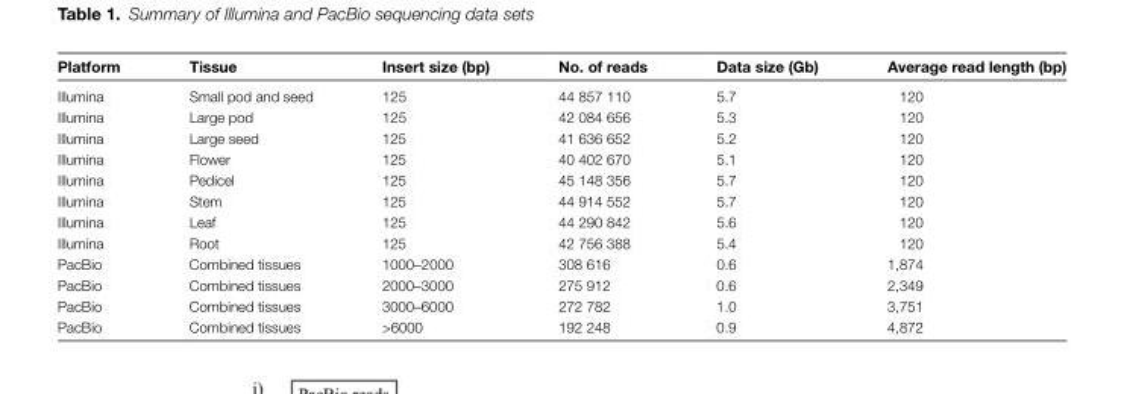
<table><thead><tr><td>Platform</td><td>Tissue</td><td>Insert size (bp)</td><td>No. of reads</td><td>Data size (Gb)</td><td>Average read length (bp)</td></tr></thead><tbody><tr><td>Illumina</td><td>Small pod and seed</td><td>125</td><td>44 857 110</td><td>5.7</td><td>120</td></tr><tr><td>Illumina</td><td>Large pod</td><td>125</td><td>42 084 656</td><td>5.3</td><td>120</td></tr><tr><td>Illumina</td><td>Large seed</td><td>125</td><td>41 636 652</td><td>5.2</td><td>120</td></tr><tr><td>Illumina</td><td>Flower</td><td>125</td><td>40 402 670</td><td>5.1</td><td>120</td></tr><tr><td>Illumina</td><td>Pedicel</td><td>125</td><td>45 148 356</td><td>5.7</td><td>120</td></tr><tr><td>Illumina</td><td>Stem</td><td>125</td><td>44 914 552</td><td>5.7</td><td>120</td></tr><tr><td>Illumina</td><td>Leaf</td><td>125</td><td>44 290 842</td><td>5.6</td><td>120</td></tr><tr><td>Illumina</td><td>Root</td><td>125</td><td>42 756 388</td><td>5.4</td><td>120</td></tr><tr><td>PacBio</td><td>Combined tissues</td><td>1000–2000</td><td>308 616</td><td>0.6</td><td>1,874</td></tr><tr><td>PacBio</td><td>Combined tissues</td><td>2000–3000</td><td>275 912</td><td>0.6</td><td>2,349</td></tr><tr><td>PacBio</td><td>Combined tissues</td><td>3000–6000</td><td>272 782</td><td>1.0</td><td>3,751</td></tr><tr><td>PacBio</td><td>Combined tissues</td><td>&gt;6000</td><td>192 248</td><td>0.9</td><td>4,872</td></tr></tbody></table>